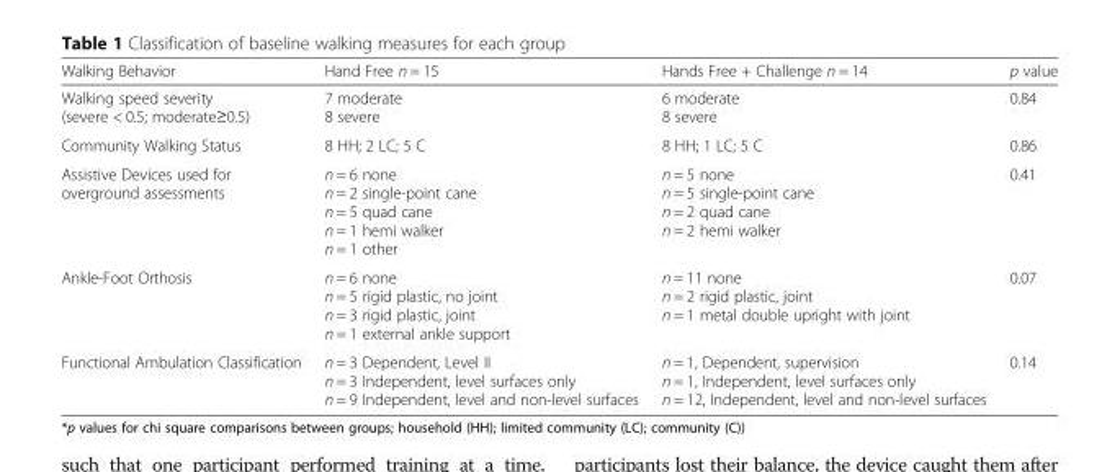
<table><thead><tr><td>Walking Behavior</td><td>Hand Free n = 15</td><td>Hands Free + Challenge n = 14</td><td>p value</td></tr></thead><tbody><tr><td>Walking speed severity (severe &lt; 0.5; moderate≥0.5)</td><td>7 moderate 8 severe</td><td>6 moderate 8 severe</td><td>0.84</td></tr><tr><td>Community Walking Status</td><td>8 HH; 2 LC; 5 C</td><td>8 HH; 1 LC; 5 C</td><td>0.86</td></tr><tr><td>Assistive Devices used for overground assessments</td><td>n = 6 none n = 2 single-point cane n = 5 quad cane n = 1 hemi walker n = 1 other</td><td>n = 5 none n = 5 single-point cane n = 2 quad cane n = 2 hemi walker</td><td>0.41</td></tr><tr><td>Ankle-Foot Orthosis</td><td>n = 6 none n = 5 rigid plastic, no joint n = 3 rigid plastic, joint n = 1 external ankle support</td><td>n = 11 none n = 2 rigid plastic, joint n = 1 metal double upright with joint</td><td>0.07</td></tr><tr><td>Functional Ambulation Classification</td><td>n = 3 Dependent, Level II n = 3 Independent, level surfaces only n = 9 Independent, level and non-level surfaces</td><td>n = 1, Dependent, supervision n = 1, Independent, level surfaces only n = 12, Independent, level and non-level surfaces</td><td>0.14</td></tr></tbody></table>